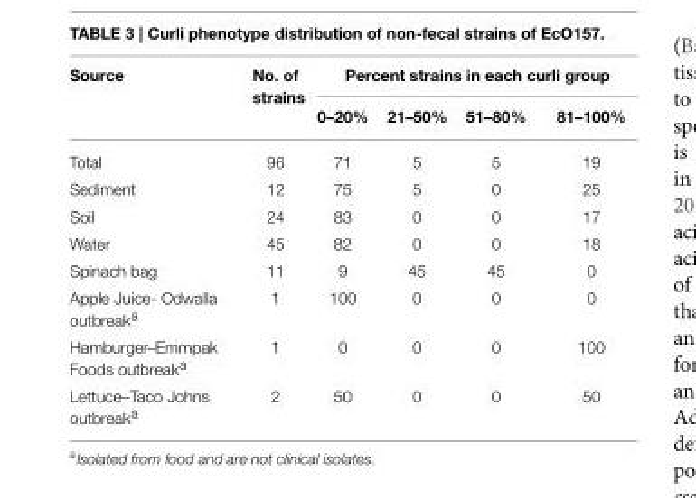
<table><thead><tr><td rowspan="2">Source</td><td rowspan="2">No. of strains</td><td colspan="4">Percent strains in each curli group</td></tr><tr><td>0–20%</td><td>21–50%</td><td>51–80%</td><td>81–100%</td></tr></thead><tbody><tr><td>Total</td><td>96</td><td>71</td><td>5</td><td>5</td><td>19</td></tr><tr><td>Sediment</td><td>12</td><td>75</td><td>5</td><td>0</td><td>25</td></tr><tr><td>Soil</td><td>24</td><td>83</td><td>0</td><td>0</td><td>17</td></tr><tr><td>Water</td><td>45</td><td>82</td><td>0</td><td>0</td><td>18</td></tr><tr><td>Spinach bag</td><td>11</td><td>9</td><td>45</td><td>45</td><td>0</td></tr><tr><td>Apple Juice- Odwalla outbreak<sup>a</sup></td><td>1</td><td>100</td><td>0</td><td>0</td><td>0</td></tr><tr><td>Hamburger–Emmpak Foods outbreak<sup>a</sup></td><td>1</td><td>0</td><td>0</td><td>0</td><td>100</td></tr><tr><td>Lettuce–Taco Johns outbreak<sup>a</sup></td><td>2</td><td>50</td><td>0</td><td>0</td><td>50</td></tr></tbody></table>